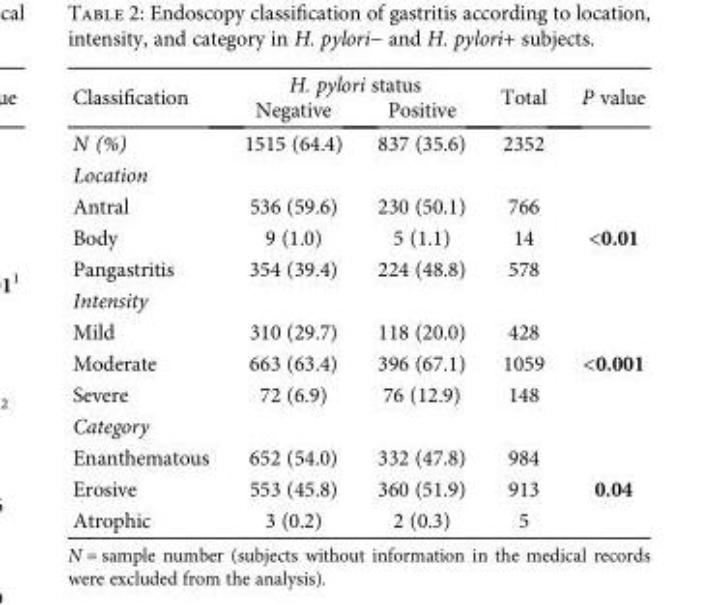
<table><thead><tr><td rowspan="2">Classification</td><td colspan="2">H. pylori status</td><td rowspan="2">Total</td><td rowspan="2">P value</td></tr><tr><td>Negative</td><td>Positive</td></tr></thead><tbody><tr><td>N (%)</td><td>1515 (64.4)</td><td>837 (35.6)</td><td>2352</td><td></td></tr><tr><td colspan="5">Location</td></tr><tr><td>Antral</td><td>536 (59.6)</td><td>230 (50.1)</td><td>766</td><td rowspan="3">&lt;0.01</td></tr><tr><td>Body</td><td>9 (1.0)</td><td>5 (1.1)</td><td>14</td></tr><tr><td>Pangastritis</td><td>354 (39.4)</td><td>224 (48.8)</td><td>578</td></tr><tr><td colspan="5">Intensity</td></tr><tr><td>Mild</td><td>310 (29.7)</td><td>118 (20.0)</td><td>428</td><td rowspan="3">&lt;0.001</td></tr><tr><td>Moderate</td><td>663 (63.4)</td><td>396 (67.1)</td><td>1059</td></tr><tr><td>Severe</td><td>72 (6.9)</td><td>76 (12.9)</td><td>148</td></tr><tr><td colspan="5">Category</td></tr><tr><td>Enanthematous</td><td>652 (54.0)</td><td>332 (47.8)</td><td>984</td><td rowspan="3">0.04</td></tr><tr><td>Erosive</td><td>553 (45.8)</td><td>360 (51.9)</td><td>913</td></tr><tr><td>Atrophic</td><td>3 (0.2)</td><td>2 (0.3)</td><td>5</td></tr></tbody></table>